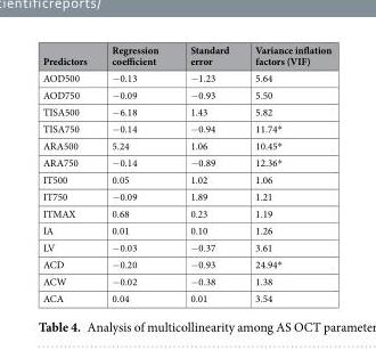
<table><thead><tr><td>Predictors</td><td>Regression coefficient</td><td>Standard error</td><td>Variance inflation factors (VIF)</td></tr></thead><tbody><tr><td>AOD500</td><td>−0.13</td><td>−1.23</td><td>5.64</td></tr><tr><td>AOD750</td><td>−0.09</td><td>−0.93</td><td>5.50</td></tr><tr><td>TISA500</td><td>−6.18</td><td>1.43</td><td>5.82</td></tr><tr><td>TISA750</td><td>−0.14</td><td>−0.94</td><td>11.74*</td></tr><tr><td>ARA500</td><td>5.24</td><td>1.06</td><td>10.45*</td></tr><tr><td>ARA750</td><td>−0.14</td><td>−0.89</td><td>12.36*</td></tr><tr><td>IT500</td><td>0.05</td><td>1.02</td><td>1.06</td></tr><tr><td>IT750</td><td>−0.09</td><td>1.89</td><td>1.21</td></tr><tr><td>ITMAX</td><td>0.68</td><td>0.23</td><td>1.19</td></tr><tr><td>IA</td><td>0.01</td><td>0.10</td><td>1.26</td></tr><tr><td>LV</td><td>−0.03</td><td>−0.37</td><td>3.61</td></tr><tr><td>ACD</td><td>−0.20</td><td>−0.93</td><td>24.94*</td></tr><tr><td>ACW</td><td>−0.02</td><td>−0.38</td><td>1.38</td></tr><tr><td>ACA</td><td>0.04</td><td>0.01</td><td>3.54</td></tr></tbody></table>